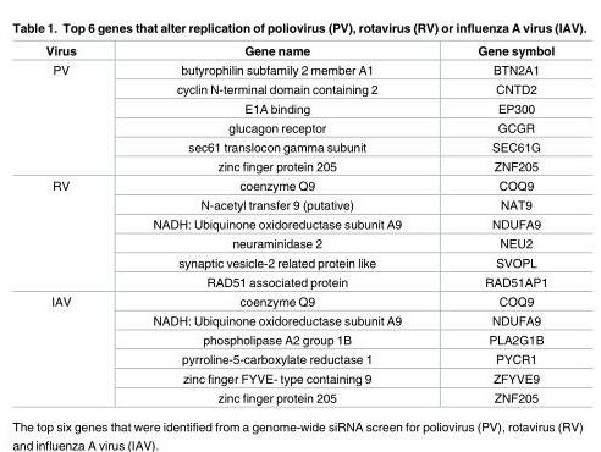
<table><thead><tr><td>Virus</td><td>Gene name</td><td>Gene symbol</td></tr></thead><tbody><tr><td rowspan="6">PV</td><td>butyrophilin subfamily 2 member A1</td><td>BTN2A1</td></tr><tr><td>cyclin N-terminal domain containing 2</td><td>CNTD2</td></tr><tr><td>E1A binding</td><td>EP300</td></tr><tr><td>glucagon receptor</td><td>GCGR</td></tr><tr><td>sec61 translocon gamma subunit</td><td>SEC61G</td></tr><tr><td>zinc finger protein 205</td><td>ZNF205</td></tr><tr><td rowspan="6">RV</td><td>coenzyme Q9</td><td>COQ9</td></tr><tr><td>N-acetyl transfer 9 (putative)</td><td>NAT9</td></tr><tr><td>NADH: Ubiquinone oxidoreductase subunit A9</td><td>NDUFA9</td></tr><tr><td>neuraminidase 2</td><td>NEU2</td></tr><tr><td>synaptic vesicle-2 related protein like</td><td>SVOPL</td></tr><tr><td>RAD51 associated protein</td><td>RAD51AP1</td></tr><tr><td rowspan="6">IAV</td><td>coenzyme Q9</td><td>COQ9</td></tr><tr><td>NADH: Ubiquinone oxidoreductase subunit A9</td><td>NDUFA9</td></tr><tr><td>phospholipase A2 group 1B</td><td>PLA2G1B</td></tr><tr><td>pyrroline-5-carboxylate reductase 1</td><td>PYCR1</td></tr><tr><td>zinc finger FYVE- type containing 9</td><td>ZFYVE9</td></tr><tr><td>zinc finger protein 205</td><td>ZNF205</td></tr></tbody></table>